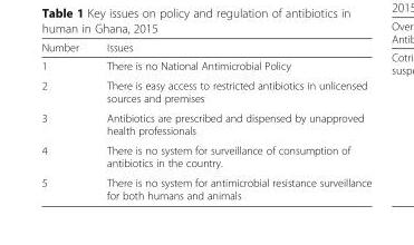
<table><thead><tr><td>Number</td><td>Issues</td></tr></thead><tbody><tr><td>1</td><td>There is no National Antimicrobial Policy</td></tr><tr><td>2</td><td>There is easy access to restricted antibiotics in unlicensed sources and premises</td></tr><tr><td>3</td><td>Antibiotics are prescribed and dispensed by unapproved health professionals</td></tr><tr><td>4</td><td>There is no system for surveillance of consumption of antibiotics in the country.</td></tr><tr><td>5</td><td>There is no system for antimicrobial resistance surveillance for both humans and animals</td></tr></tbody></table>